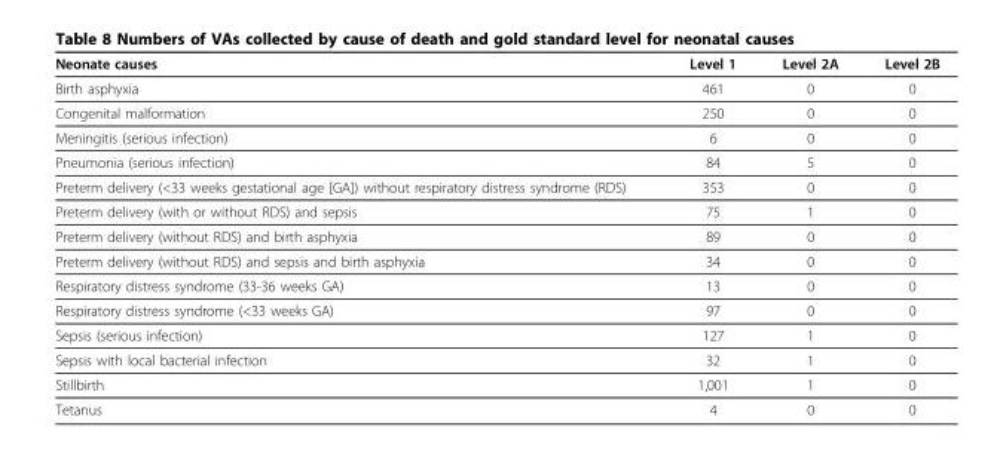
<table><thead><tr><td>Neonate causes</td><td>Level 1</td><td>Level 2A</td><td>Level 2B</td></tr></thead><tbody><tr><td>Birth asphyxia</td><td>461</td><td>0</td><td>0</td></tr><tr><td>Congenital malformation</td><td>250</td><td>0</td><td>0</td></tr><tr><td>Meningitis (serious infection)</td><td>6</td><td>0</td><td>0</td></tr><tr><td>Pneumonia (serious infection)</td><td>84</td><td>5</td><td>0</td></tr><tr><td>Preterm delivery (&lt;33 weeks gestational age [GA]) without respiratory distress syndrome (RDS)</td><td>353</td><td>0</td><td>0</td></tr><tr><td>Preterm delivery (with or without RDS) and sepsis</td><td>75</td><td>1</td><td>0</td></tr><tr><td>Preterm delivery (without RDS) and birth asphyxia</td><td>89</td><td>0</td><td>0</td></tr><tr><td>Preterm delivery (without RDS) and sepsis and birth asphyxia</td><td>34</td><td>0</td><td>0</td></tr><tr><td>Respiratory distress syndrome (33-36 weeks GA)</td><td>13</td><td>0</td><td>0</td></tr><tr><td>Respiratory distress syndrome (&lt;33 weeks GA)</td><td>97</td><td>0</td><td>0</td></tr><tr><td>Sepsis (serious infection)</td><td>127</td><td>1</td><td>0</td></tr><tr><td>Sepsis with local bacterial infection</td><td>32</td><td>1</td><td>0</td></tr><tr><td>Stillbirth</td><td>1,001</td><td>1</td><td>0</td></tr><tr><td>Tetanus</td><td>4</td><td>0</td><td>0</td></tr></tbody></table>